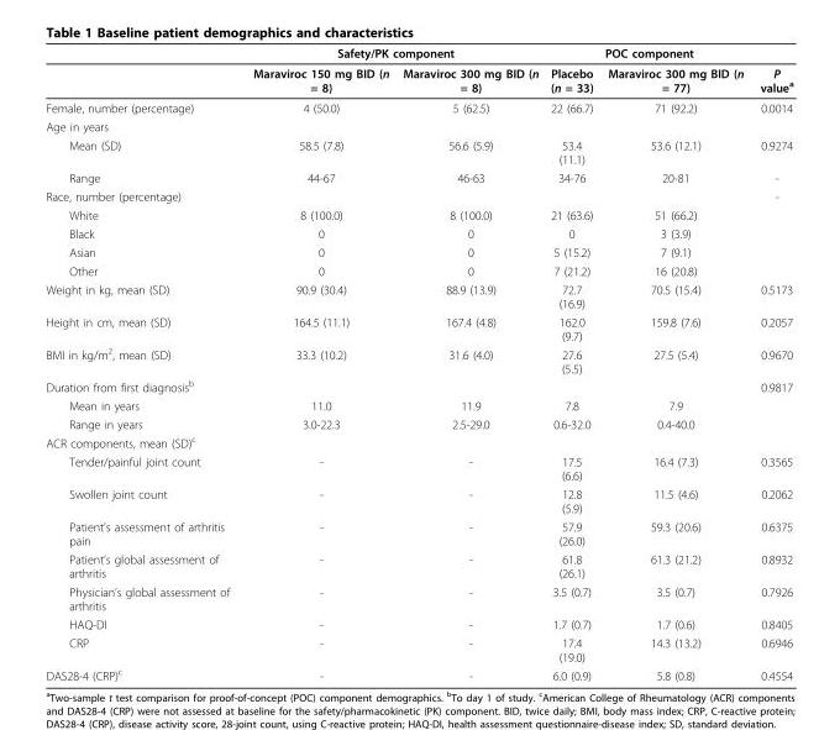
<table><thead><tr><td rowspan="2"></td><td colspan="2">Safety/PK component</td><td colspan="2">POC component</td><td rowspan="2">P value<sup>a</sup></td></tr><tr><td>Maraviroc 150 mg BID (n = 8)</td><td>Maraviroc 300 mg BID (n = 8)</td><td>Placebo (n = 33)</td><td>Maraviroc 300 mg BID (n = 77)</td></tr></thead><tbody><tr><td>Female, number (percentage)</td><td>4 (50.0)</td><td>5 (62.5)</td><td>22 (66.7)</td><td>71 (92.2)</td><td>0.0014</td></tr><tr><td colspan="6">Age in years</td></tr><tr><td>Mean (SD)</td><td>58.5 (7.8)</td><td>56.6 (5.9)</td><td>53.4 (11.1)</td><td>53.6 (12.1)</td><td>0.9274</td></tr><tr><td>Range</td><td>44-67</td><td>46-63</td><td>34-76</td><td>20-81</td><td>-</td></tr><tr><td>Race, number (percentage)</td><td></td><td></td><td></td><td></td><td>-</td></tr><tr><td>White</td><td>8 (100.0)</td><td>8 (100.0)</td><td>21 (63.6)</td><td>51 (66.2)</td><td></td></tr><tr><td>Black</td><td>0</td><td>0</td><td>0</td><td>3 (3.9)</td><td></td></tr><tr><td>Asian</td><td>0</td><td>0</td><td>5 (15.2)</td><td>7 (9.1)</td><td></td></tr><tr><td>Other</td><td>0</td><td>0</td><td>7 (21.2)</td><td>16 (20.8)</td><td></td></tr><tr><td>Weight in kg, mean (SD)</td><td>90.9 (30.4)</td><td>88.9 (13.9)</td><td>72.7 (16.9)</td><td>70.5 (15.4)</td><td>0.5173</td></tr><tr><td>Height in cm, mean (SD)</td><td>164.5 (11.1)</td><td>167.4 (4.8)</td><td>162.0 (9.7)</td><td>159.8 (7.6)</td><td>0.2057</td></tr><tr><td>BMI in kg/m<sup>2</sup>, mean (SD)</td><td>33.3 (10.2)</td><td>31.6 (4.0)</td><td>27.6 (5.5)</td><td>27.5 (5.4)</td><td>0.9670</td></tr><tr><td>Duration from first diagnosis<sup>b</sup></td><td></td><td></td><td></td><td></td><td>0.9817</td></tr><tr><td>Mean in years</td><td>11.0</td><td>11.9</td><td>7.8</td><td>7.9</td><td></td></tr><tr><td>Range in years</td><td>3.0-22.3</td><td>2.5-29.0</td><td>0.6-32.0</td><td>0.4-40.0</td><td></td></tr><tr><td colspan="6">ACR components, mean (SD)<sup>c</sup></td></tr><tr><td>Tender/painful joint count</td><td>-</td><td>-</td><td>17.5 (6.6)</td><td>16.4 (7.3)</td><td>0.3565</td></tr><tr><td>Swollen joint count</td><td>-</td><td>-</td><td>12.8 (5.9)</td><td>11.5 (4.6)</td><td>0.2062</td></tr><tr><td>Patient’s assessment of arthritis pain</td><td>-</td><td>-</td><td>57.9 (26.0)</td><td>59.3 (20.6)</td><td>0.6375</td></tr><tr><td>Patient’s global assessment of arthritis</td><td>-</td><td>-</td><td>61.8 (26.1)</td><td>61.3 (21.2)</td><td>0.8932</td></tr><tr><td>Physician’s global assessment of arthritis</td><td>-</td><td>-</td><td>3.5 (0.7)</td><td>3.5 (0.7)</td><td>0.7926</td></tr><tr><td>HAQ-DI</td><td>-</td><td>-</td><td>1.7 (0.7)</td><td>1.7 (0.6)</td><td>0.8405</td></tr><tr><td>CRP</td><td>-</td><td>-</td><td>17.4 (19.0)</td><td>14.3 (13.2)</td><td>0.6946</td></tr><tr><td>DAS28-4 (CRP)<sup>c</sup></td><td>-</td><td>-</td><td>6.0 (0.9)</td><td>5.8 (0.8)</td><td>0.4554</td></tr></tbody></table>